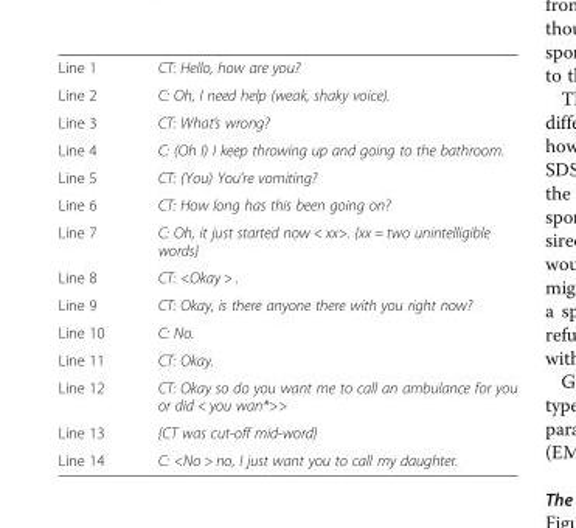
<table><tbody><tr><td>Line 1</td><td>CT: Hello, how are you?</td></tr><tr><td>Line 2</td><td>C: Oh, I need help (weak, shaky voice).</td></tr><tr><td>Line 3</td><td>CT: What’s wrong?</td></tr><tr><td>Line 4</td><td>C: (Oh I) I keep throwing up and going to the bathroom.</td></tr><tr><td>Line 5</td><td>CT: (You) You’re vomiting?</td></tr><tr><td>Line 6</td><td>CT: How long has this been going on?</td></tr><tr><td>Line 7</td><td>C: Oh, it just started now &lt; xx&gt;. {xx = two unintelligible words}</td></tr><tr><td>Line 8</td><td>CT: &lt;Okay &gt; .</td></tr><tr><td>Line 9</td><td>CT: Okay, is there anyone there with you right now?</td></tr><tr><td>Line 10</td><td>C: No.</td></tr><tr><td>Line 11</td><td>CT: Okay.</td></tr><tr><td>Line 12</td><td>CT: Okay so do you want me to call an ambulance for you or did &lt; you wan*&gt;&gt;</td></tr><tr><td>Line 13</td><td>{CT was cut-off mid-word}</td></tr><tr><td>Line 14</td><td>C: &lt;No &gt; no, I just want you to call my daughter.</td></tr></tbody></table>